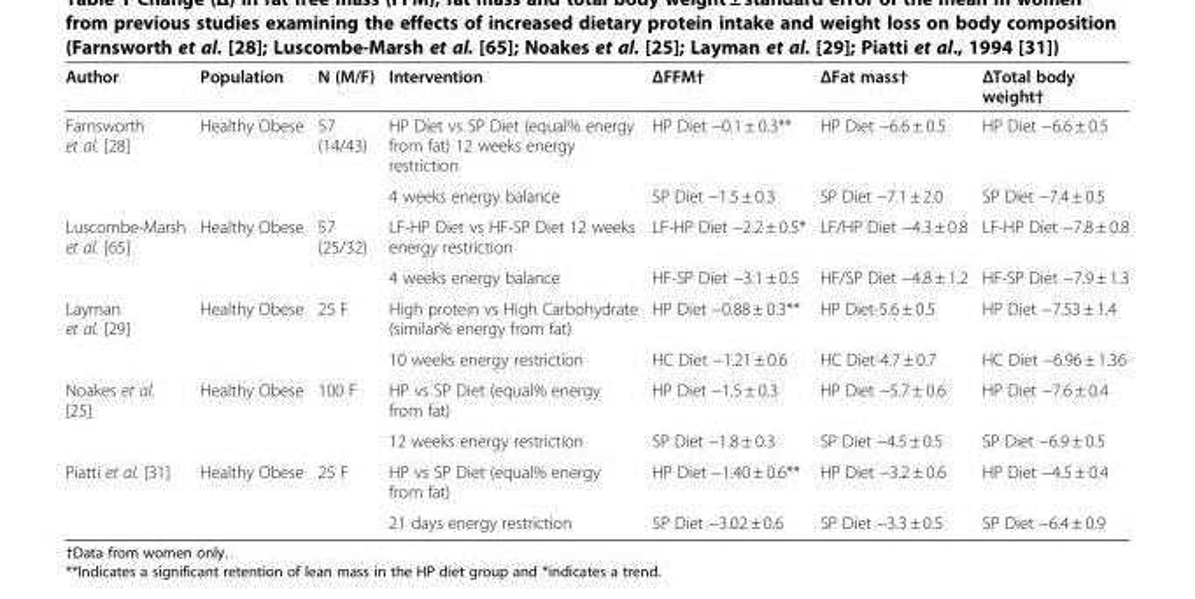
<table><thead><tr><td>Author</td><td>Population</td><td>N (M/F)</td><td>Intervention</td><td>ΔFFM†</td><td>ΔFat mass†</td><td>ΔTotal body weight†</td></tr></thead><tbody><tr><td rowspan="2">Farnsworth et al. [28]</td><td rowspan="2">Healthy Obese</td><td rowspan="2">57 (14/43)</td><td>HP Diet vs SP Diet (equal% energy from fat) 12 weeks energy restriction</td><td>HP Diet −0.1 ± 0.3**</td><td>HP Diet −6.6 ± 0.5</td><td>HP Diet −6.6 ± 0.5</td></tr><tr><td>4 weeks energy balance</td><td>SP Diet −1.5 ± 0.3</td><td>SP Diet −7.1 ± 2.0</td><td>SP Diet −7.4 ± 0.5</td></tr><tr><td rowspan="2">Luscombe-Marsh et al. [65]</td><td rowspan="2">Healthy Obese</td><td rowspan="2">57 (25/32)</td><td>LF-HP Diet vs HF-SP Diet 12 weeks energy restriction</td><td>LF-HP Diet −2.2 ± 0.5*</td><td>LF/HP Diet −4.3 ± 0.8</td><td>LF-HP Diet −7.8 ± 0.8</td></tr><tr><td>4 weeks energy balance</td><td>HF-SP Diet −3.1 ± 0.5</td><td>HF/SP Diet −4.8 ± 1.2</td><td>HF-SP Diet −7.9 ± 1.3</td></tr><tr><td rowspan="2">Layman et al. [29]</td><td rowspan="2">Healthy Obese</td><td rowspan="2">25 F</td><td>High protein vs High Carbohydrate (similar% energy from fat)</td><td>HP Diet −0.88 ± 0.3**</td><td>HP Diet-5.6 ± 0.5</td><td>HP Diet −7.53 ± 1.4</td></tr><tr><td>10 weeks energy restriction</td><td>HC Diet −1.21 ± 0.6</td><td>HC Diet-4.7 ± 0.7</td><td>HC Diet −6.96 ± 1.36</td></tr><tr><td rowspan="2">Noakes et al. [25]</td><td rowspan="2">Healthy Obese</td><td rowspan="2">100 F</td><td>HP vs SP Diet (equal% energy from fat)</td><td>HP Diet −1.5 ± 0.3</td><td>HP Diet −5.7 ± 0.6</td><td>HP Diet −7.6 ± 0.4</td></tr><tr><td>12 weeks energy restriction</td><td>SP Diet −1.8 ± 0.3</td><td>SP Diet −4.5 ± 0.5</td><td>SP Diet −6.9 ± 0.5</td></tr><tr><td rowspan="2">Piatti et al. [31]</td><td rowspan="2">Healthy Obese</td><td rowspan="2">25 F</td><td>HP vs SP Diet (equal% energy from fat)</td><td>HP Diet −1.40 ± 0.6**</td><td>HP Diet −3.2 ± 0.6</td><td>HP Diet −4.5 ± 0.4</td></tr><tr><td>21 days energy restriction</td><td>SP Diet −3.02 ± 0.6</td><td>SP Diet −3.3 ± 0.5</td><td>SP Diet −6.4 ± 0.9</td></tr></tbody></table>